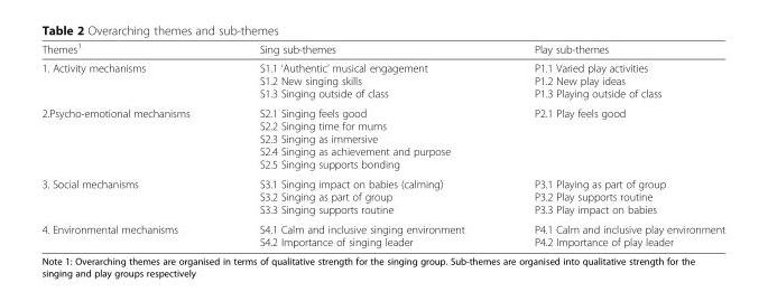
<table><thead><tr><td>Themes<sup>1</sup></td><td>Sing sub-themes</td><td>Play sub-themes</td></tr></thead><tbody><tr><td>1. Activity mechanisms</td><td>S1.1 ‘Authentic’ musical engagement S1.2 New singing skills S1.3 Singing outside of class</td><td>P1.1 Varied play activities P1.2 New play ideas P1.3 Playing outside of class</td></tr><tr><td>2.Psycho-emotional mechanisms</td><td>S2.1 Singing feels good S2.2 Singing time for mums S2.3 Singing as immersive S2.4 Singing as achievement and purpose S2.5 Singing supports bonding</td><td>P2.1 Play feels good</td></tr><tr><td>3. Social mechanisms</td><td>S3.1 Singing impact on babies (calming) S3.2 Singing as part of group S3.3 Singing supports routine</td><td>P3.1 Playing as part of group P3.2 Play supports routine P3.3 Play impact on babies</td></tr><tr><td>4. Environmental mechanisms</td><td>S4.1 Calm and inclusive singing environment S4.2 Importance of singing leader</td><td>P4.1 Calm and inclusive play environment P4.2 Importance of play leader</td></tr></tbody></table>